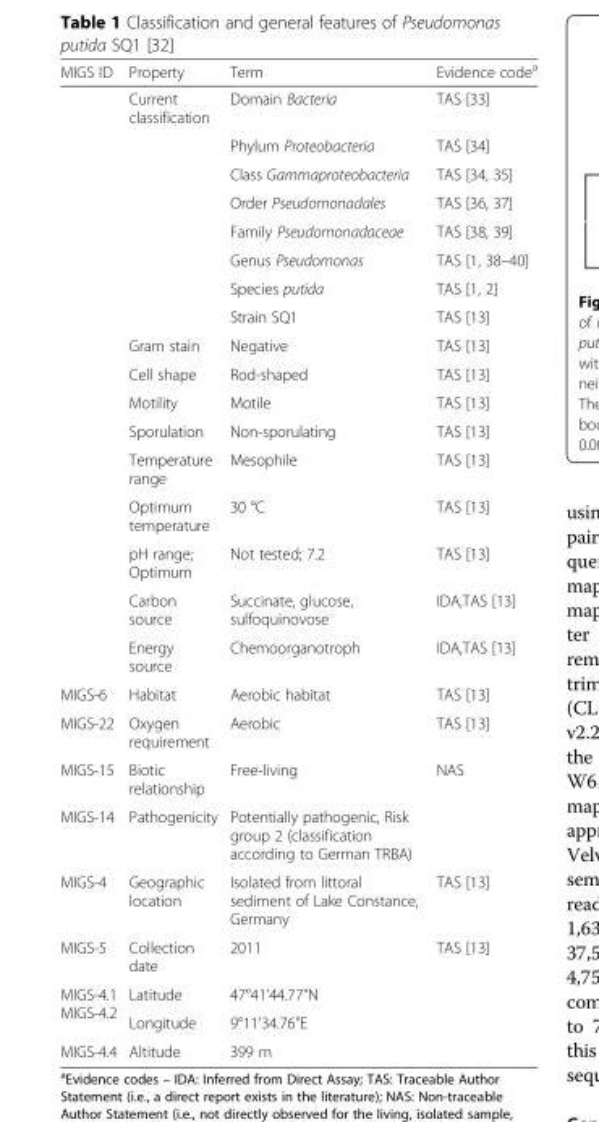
<table><thead><tr><td>MIGS ID</td><td>Property</td><td>Term</td><td>Evidence code<sup>a</sup></td></tr></thead><tbody><tr><td></td><td>Current classification</td><td>Domain Bacteria</td><td>TAS [33]</td></tr><tr><td></td><td></td><td>Phylum Proteobacteria</td><td>TAS [34]</td></tr><tr><td></td><td></td><td>Class Gammaproteobacteria</td><td>TAS [34, 35]</td></tr><tr><td></td><td></td><td>Order Pseudomonadales</td><td>TAS [36, 37]</td></tr><tr><td></td><td></td><td>Family Pseudomonadaceae</td><td>TAS [38, 39]</td></tr><tr><td></td><td></td><td>Genus Pseudomonas</td><td>TAS [1, 38–40]</td></tr><tr><td></td><td></td><td>Species putida</td><td>TAS [1, 2]</td></tr><tr><td></td><td></td><td>Strain SQ1</td><td>TAS [13]</td></tr><tr><td></td><td>Gram stain</td><td>Negative</td><td>TAS [13]</td></tr><tr><td></td><td>Cell shape</td><td>Rod-shaped</td><td>TAS [13]</td></tr><tr><td></td><td>Motility</td><td>Motile</td><td>TAS [13]</td></tr><tr><td></td><td>Sporulation</td><td>Non-sporulating</td><td>TAS [13]</td></tr><tr><td></td><td>Temperature range</td><td>Mesophile</td><td>TAS [13]</td></tr><tr><td></td><td>Optimum temperature</td><td>30 °C</td><td>TAS [13]</td></tr><tr><td></td><td>pH range; Optimum</td><td>Not tested; 7.2</td><td>TAS [13]</td></tr><tr><td></td><td>Carbon source</td><td>Succinate, glucose, sulfoquinovose</td><td>IDA,TAS [13]</td></tr><tr><td></td><td>Energy source</td><td>Chemoorganotroph</td><td>IDA,TAS [13]</td></tr><tr><td>MIGS-6</td><td>Habitat</td><td>Aerobic habitat</td><td>TAS [13]</td></tr><tr><td>MIGS-22</td><td>Oxygen requirement</td><td>Aerobic</td><td>TAS [13]</td></tr><tr><td>MIGS-15</td><td>Biotic relationship</td><td>Free-living</td><td>NAS</td></tr><tr><td>MIGS-14</td><td>Pathogenicity</td><td>Potentially pathogenic, Risk group 2 (classification according to German TRBA)</td><td></td></tr><tr><td>MIGS-4</td><td>Geographic location</td><td>Isolated from littoral sediment of Lake Constance, Germany</td><td>TAS [13]</td></tr><tr><td>MIGS-5</td><td>Collection date</td><td>2011</td><td>TAS [13]</td></tr><tr><td rowspan="2">MIGS-4.1 MIGS-4.2</td><td>Latitude</td><td>47°41&#x27;44.77&quot;N</td><td rowspan="2"></td></tr><tr><td>Longitude</td><td>9°11&#x27;34.76&quot;E</td></tr><tr><td>MIGS-4.4</td><td>Altitude</td><td>399 m</td><td></td></tr></tbody></table>